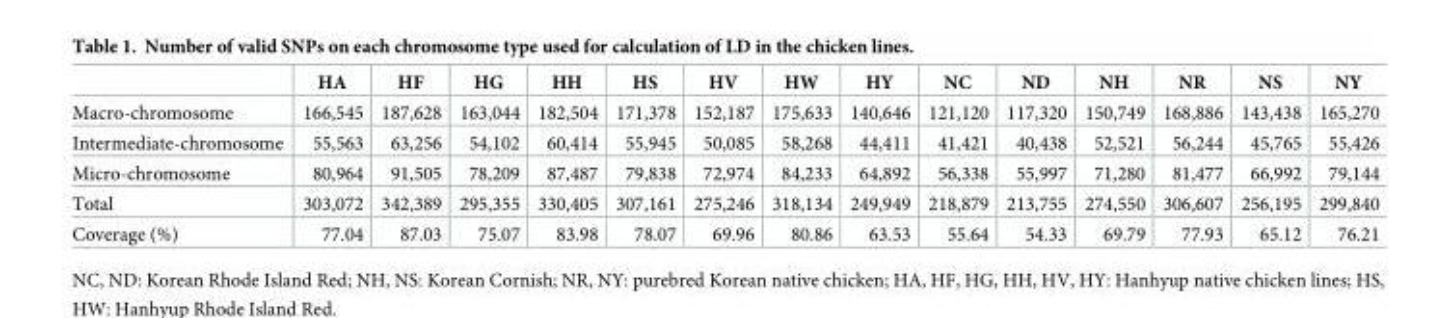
<table><thead><tr><td></td><td>HA</td><td>HF</td><td>HG</td><td>HH</td><td>HS</td><td>HV</td><td>HW</td><td>HY</td><td>NC</td><td>ND</td><td>NH</td><td>NR</td><td>NS</td><td>NY</td></tr></thead><tbody><tr><td>Macro-chromosome</td><td>166,545</td><td>187,628</td><td>163,044</td><td>182,504</td><td>171,378</td><td>152,187</td><td>175,633</td><td>140,646</td><td>121,120</td><td>117,320</td><td>150,749</td><td>168,886</td><td>143,438</td><td>165,270</td></tr><tr><td>Intermediate-chromosome</td><td>55,563</td><td>63,256</td><td>54,102</td><td>60,414</td><td>55,945</td><td>50,085</td><td>58,268</td><td>44,411</td><td>41,421</td><td>40,438</td><td>52,521</td><td>56,244</td><td>45,765</td><td>55,426</td></tr><tr><td>Micro-chromosome</td><td>80,964</td><td>91,505</td><td>78,209</td><td>87,487</td><td>79,838</td><td>72,974</td><td>84,233</td><td>64,892</td><td>56,338</td><td>55,997</td><td>71,280</td><td>81,477</td><td>66,992</td><td>79,144</td></tr><tr><td>Total</td><td>303,072</td><td>342,389</td><td>295,355</td><td>330,405</td><td>307,161</td><td>275,246</td><td>318,134</td><td>249,949</td><td>218,879</td><td>213,755</td><td>274,550</td><td>306,607</td><td>256,195</td><td>299,840</td></tr><tr><td>Coverage (%)</td><td>77.04</td><td>87.03</td><td>75.07</td><td>83.98</td><td>78.07</td><td>69.96</td><td>80.86</td><td>63.53</td><td>55.64</td><td>54.33</td><td>69.79</td><td>77.93</td><td>65.12</td><td>76.21</td></tr></tbody></table>